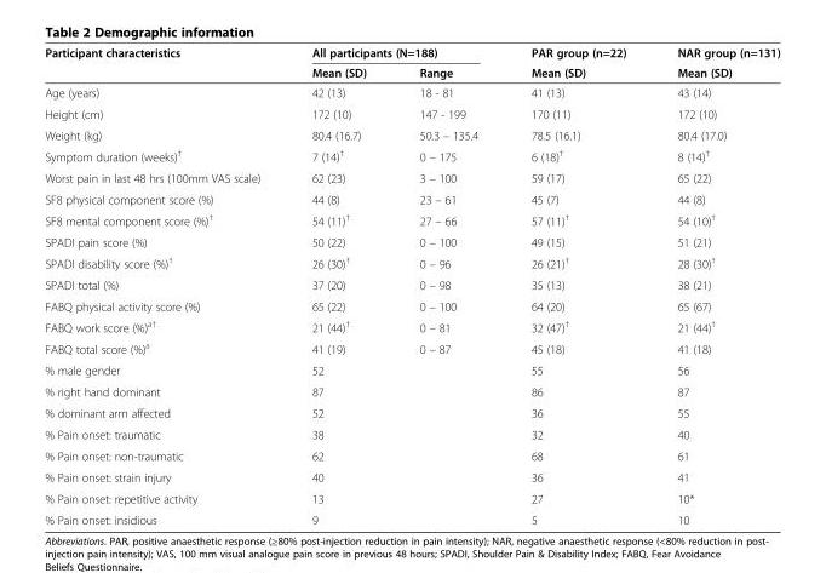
<table><thead><tr><td rowspan="2">Participant characteristics</td><td colspan="2">All participants (N=188)</td><td rowspan="2">PAR group (n=22) Mean (SD)</td><td rowspan="2">NAR group (n=131) Mean (SD)</td></tr><tr><td>Mean (SD)</td><td>Range</td></tr></thead><tbody><tr><td>Age (years)</td><td>42 (13)</td><td>18 - 81</td><td>41 (13)</td><td>43 (14)</td></tr><tr><td>Height (cm)</td><td>172 (10)</td><td>147 - 199</td><td>170 (11)</td><td>172 (10)</td></tr><tr><td>Weight (kg)</td><td>80.4 (16.7)</td><td>50.3 – 135.4</td><td>78.5 (16.1)</td><td>80.4 (17.0)</td></tr><tr><td>Symptom duration (weeks)<sup>†</sup></td><td>7 (14)<sup>†</sup></td><td>0 – 175</td><td>6 (18)<sup>†</sup></td><td>8 (14)<sup>†</sup></td></tr><tr><td>Worst pain in last 48 hrs (100mm VAS scale)</td><td>62 (23)</td><td>3 – 100</td><td>59 (17)</td><td>65 (22)</td></tr><tr><td>SF8 physical component score (%)</td><td>44 (8)</td><td>23 – 61</td><td>45 (7)</td><td>44 (8)</td></tr><tr><td>SF8 mental component score (%)<sup>†</sup></td><td>54 (11)<sup>†</sup></td><td>27 – 66</td><td>57 (11)<sup>†</sup></td><td>54 (10)<sup>†</sup></td></tr><tr><td>SPADI pain score (%)</td><td>50 (22)</td><td>0 – 100</td><td>49 (15)</td><td>51 (21)</td></tr><tr><td>SPADI disability score (%)<sup>†</sup></td><td>26 (30)<sup>†</sup></td><td>0 – 96</td><td>26 (21)<sup>†</sup></td><td>28 (30)<sup>†</sup></td></tr><tr><td>SPADI total (%)</td><td>37 (20)</td><td>0 – 98</td><td>35 (13)</td><td>38 (21)</td></tr><tr><td>FABQ physical activity score (%)</td><td>65 (22)</td><td>0 – 100</td><td>64 (20)</td><td>65 (67)</td></tr><tr><td>FABQ work score (%)<sup>a†</sup></td><td>21 (44)<sup>†</sup></td><td>0 – 81</td><td>32 (47)<sup>†</sup></td><td>21 (44)<sup>†</sup></td></tr><tr><td>FABQ total score (%)<sup>a</sup></td><td>41 (19)</td><td>0 – 87</td><td>45 (18)</td><td>41 (18)</td></tr><tr><td>% male gender</td><td>52</td><td></td><td>55</td><td>56</td></tr><tr><td>% right hand dominant</td><td>87</td><td></td><td>86</td><td>87</td></tr><tr><td>% dominant arm affected</td><td>52</td><td></td><td>36</td><td>55</td></tr><tr><td>% Pain onset: traumatic</td><td>38</td><td></td><td>32</td><td>40</td></tr><tr><td>% Pain onset: non-traumatic</td><td>62</td><td></td><td>68</td><td>61</td></tr><tr><td>% Pain onset: strain injury</td><td>40</td><td></td><td>36</td><td>41</td></tr><tr><td>% Pain onset: repetitive activity</td><td>13</td><td></td><td>27</td><td>10*</td></tr><tr><td>% Pain onset: insidious</td><td>9</td><td></td><td>5</td><td>10</td></tr></tbody></table>